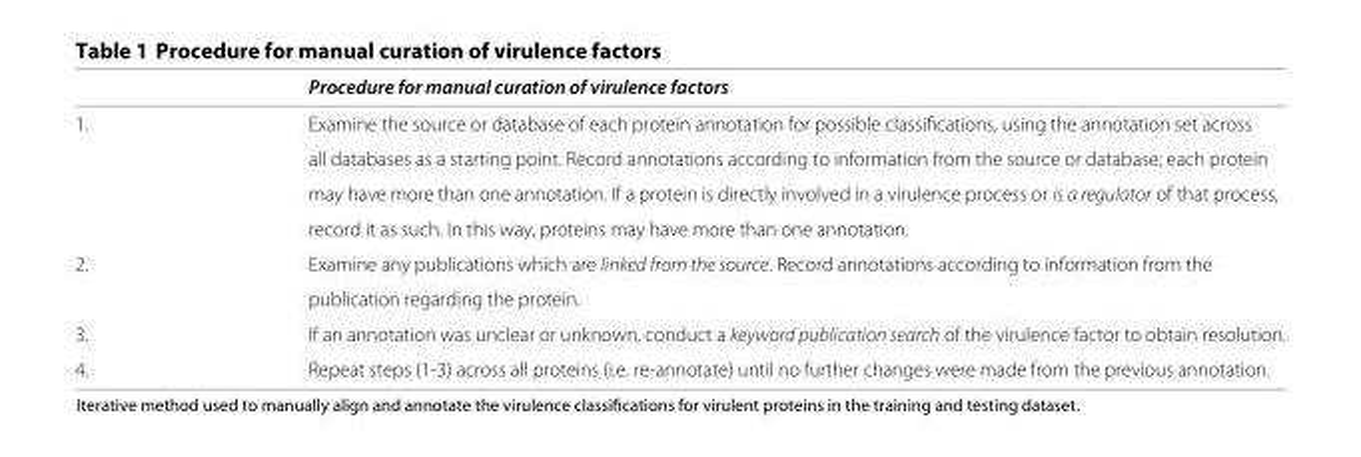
<table><thead><tr><td></td><td>Procedure for manual curation of virulence factors</td></tr></thead><tbody><tr><td rowspan="4">1.</td><td>Examine the source or database of each protein annotation for possible classifications, using the annotation set across</td></tr><tr><td>all databases as a starting point. Record annotations according to information from the source or database; each protein</td></tr><tr><td>may have more than one annotation. If a protein is directly involved in a virulence process or is a regulator of that process,</td></tr><tr><td>record it as such. In this way, proteins may have more than one annotation.</td></tr><tr><td rowspan="2">2.</td><td>Examine any publications which are linked from the source. Record annotations according to information from the</td></tr><tr><td>publication regarding the protein.</td></tr><tr><td>3.</td><td>If an annotation was unclear or unknown, conduct a keyword publication search of the virulence factor to obtain resolution.</td></tr><tr><td>4.</td><td>Repeat steps (1-3) across all proteins (i.e. re-annotate) until no further changes were made from the previous annotation.</td></tr></tbody></table>